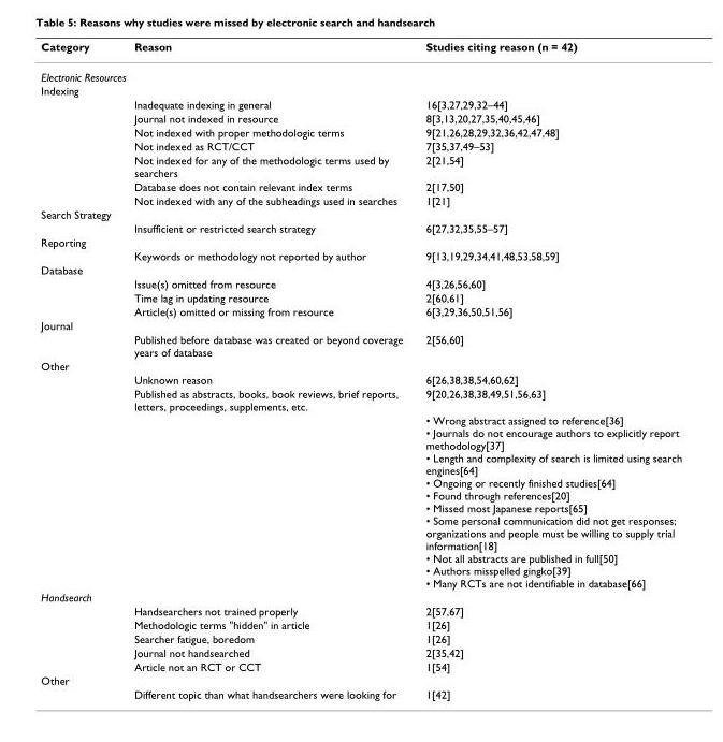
<table><thead><tr><td>Category</td><td>Reason</td><td>Studies citing reason (n = 42)</td></tr></thead><tbody><tr><td colspan="3">Electronic Resources</td></tr><tr><td colspan="3">Indexing</td></tr><tr><td></td><td>Inadequate indexing in general</td><td>16[3,27,29,32–44]</td></tr><tr><td></td><td>Journal not indexed in resource</td><td>8[3,13,20,27,35,40,45,46]</td></tr><tr><td></td><td>Not indexed with proper methodologic terms</td><td>9[21,26,28,29,32,36,42,47,48]</td></tr><tr><td></td><td>Not indexed as RCT/CCT</td><td>7[35,37,49–53]</td></tr><tr><td></td><td>Not indexed for any of the methodologic terms used by searchers</td><td>2[21,54]</td></tr><tr><td></td><td>Database does not contain relevant index terms</td><td>2[17,50]</td></tr><tr><td></td><td>Not indexed with any of the subheadings used in searches</td><td>1[21]</td></tr><tr><td colspan="3">Search Strategy</td></tr><tr><td></td><td>Insufficient or restricted search strategy</td><td>6[27,32,35,55–57]</td></tr><tr><td colspan="3">Reporting</td></tr><tr><td></td><td>Keywords or methodology not reported by author</td><td>9[13,19,29,34,41,48,53,58,59]</td></tr><tr><td colspan="3">Database</td></tr><tr><td></td><td>Issue(s) omitted from resource</td><td>4[3,26,56,60]</td></tr><tr><td></td><td>Time lag in updating resource</td><td>2[60,61]</td></tr><tr><td></td><td>Article(s) omitted or missing from resource</td><td>6[3,29,36,50,51,56]</td></tr><tr><td colspan="3">Journal</td></tr><tr><td></td><td>Published before database was created or beyond coverage years of database</td><td>2[56,60]</td></tr><tr><td colspan="3">Other</td></tr><tr><td></td><td>Unknown reason</td><td>6[26,38,38,54,60,62]</td></tr><tr><td></td><td>Published as abstracts, books, book reviews, brief reports, letters, proceedings, supplements, etc.</td><td>9[20,26,38,38,49,51,56,63]</td></tr><tr><td></td><td></td><td>• Wrong abstract assigned to reference[36] • Journals do not encourage authors to explicitly report methodology[37] • Length and complexity of search is limited using search engines[64] • Ongoing or recently finished studies[64] • Found through references[20] • Missed most Japanese reports[65] • Some personal communication did not get responses; organizations and people must be willing to supply trial information[18] • Not all abstracts are published in full[50] • Authors misspelled gingko[39] • Many RCTs are not identifiable in database[66]</td></tr><tr><td colspan="3">Handsearch</td></tr><tr><td></td><td>Handsearchers not trained properly</td><td>2[57,67]</td></tr><tr><td></td><td>Methodologic terms &quot;hidden&quot; in article</td><td>1[26]</td></tr><tr><td></td><td>Searcher fatigue, boredom</td><td>1[26]</td></tr><tr><td></td><td>Journal not handsearched</td><td>2[35,42]</td></tr><tr><td></td><td>Article not an RCT or CCT</td><td>1[54]</td></tr><tr><td colspan="3">Other</td></tr><tr><td></td><td>Different topic than what handsearchers were looking for</td><td>1[42]</td></tr></tbody></table>